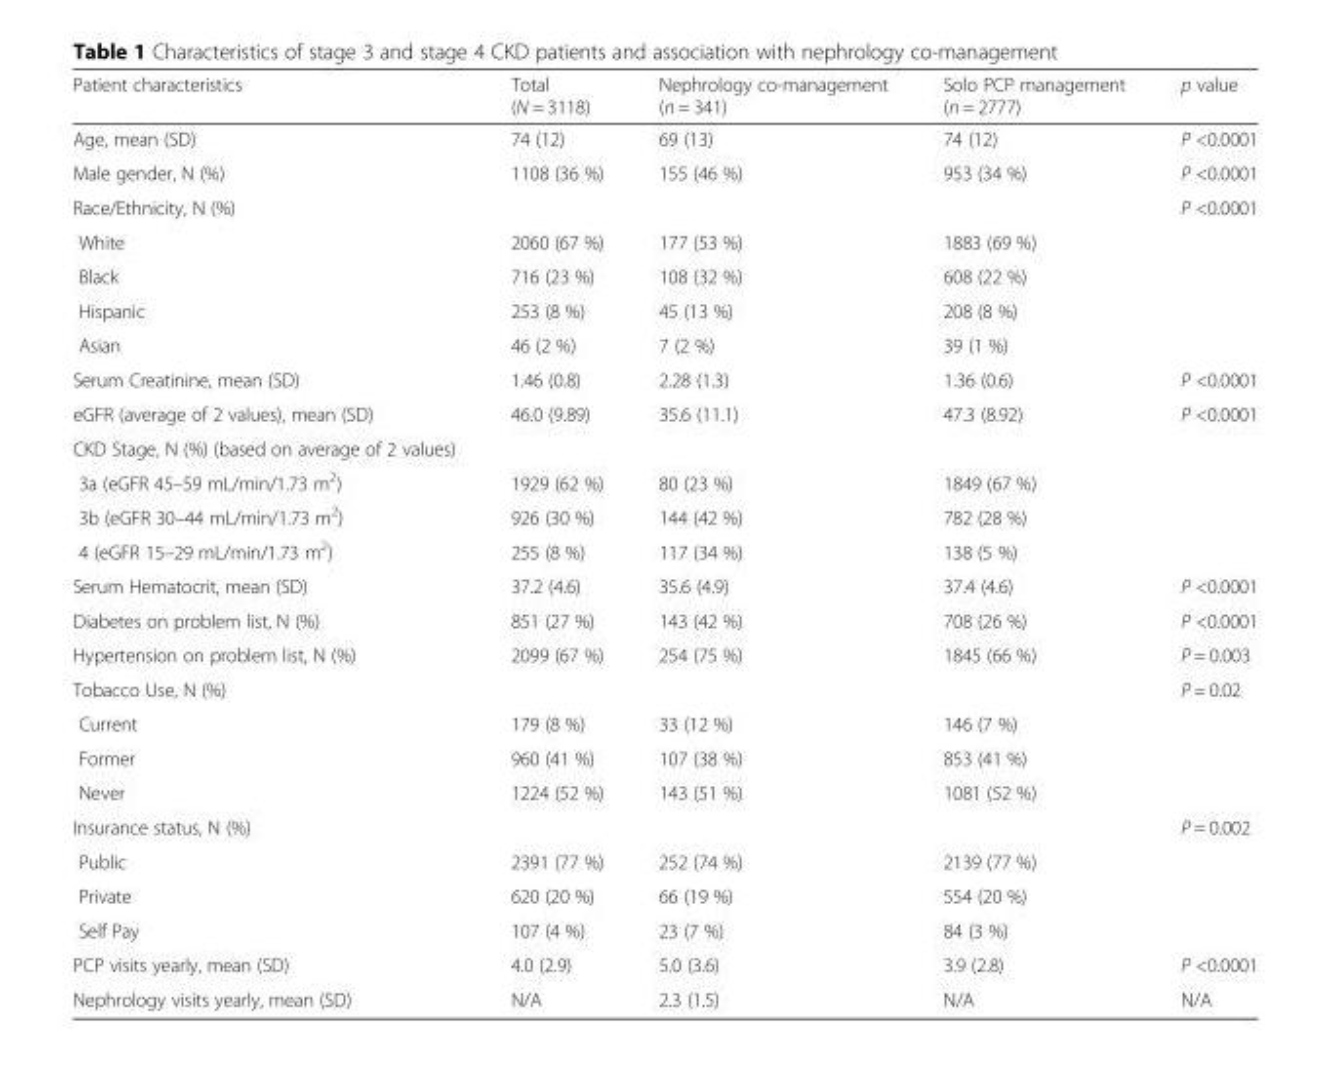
<table><thead><tr><td>Patient characteristics</td><td>Total (N = 3118)</td><td>Nephrology co-management (n = 341)</td><td>Solo PCP management (n = 2777)</td><td>p value</td></tr></thead><tbody><tr><td>Age, mean (SD)</td><td>74 (12)</td><td>69 (13)</td><td>74 (12)</td><td>P &lt;0.0001</td></tr><tr><td>Male gender, N (%)</td><td>1108 (36 %)</td><td>155 (46 %)</td><td>953 (34 %)</td><td>P &lt;0.0001</td></tr><tr><td>Race/Ethnicity, N (%)</td><td></td><td></td><td></td><td>P &lt;0.0001</td></tr><tr><td>White</td><td>2060 (67 %)</td><td>177 (53 %)</td><td>1883 (69 %)</td><td></td></tr><tr><td>Black</td><td>716 (23 %)</td><td>108 (32 %)</td><td>608 (22 %)</td><td></td></tr><tr><td>Hispanic</td><td>253 (8 %)</td><td>45 (13 %)</td><td>208 (8 %)</td><td></td></tr><tr><td>Asian</td><td>46 (2 %)</td><td>7 (2 %)</td><td>39 (1 %)</td><td></td></tr><tr><td>Serum Creatinine, mean (SD)</td><td>1.46 (0.8)</td><td>2.28 (1.3)</td><td>1.36 (0.6)</td><td>P &lt;0.0001</td></tr><tr><td>eGFR (average of 2 values), mean (SD)</td><td>46.0 (9.89)</td><td>35.6 (11.1)</td><td>47.3 (8.92)</td><td>P &lt;0.0001</td></tr><tr><td colspan="5">CKD Stage, N (%) (based on average of 2 values)</td></tr><tr><td>3a (eGFR 45–59 mL/min/1.73 m<sup>2</sup>)</td><td>1929 (62 %)</td><td>80 (23 %)</td><td>1849 (67 %)</td><td></td></tr><tr><td>3b (eGFR 30–44 mL/min/1.73 m<sup>2</sup>)</td><td>926 (30 %)</td><td>144 (42 %)</td><td>782 (28 %)</td><td></td></tr><tr><td>4 (eGFR 15–29 mL/min/1.73 m<sup>2</sup>)</td><td>255 (8 %)</td><td>117 (34 %)</td><td>138 (5 %)</td><td></td></tr><tr><td>Serum Hematocrit, mean (SD)</td><td>37.2 (4.6)</td><td>35.6 (4.9)</td><td>37.4 (4.6)</td><td>P &lt;0.0001</td></tr><tr><td>Diabetes on problem list, N (%)</td><td>851 (27 %)</td><td>143 (42 %)</td><td>708 (26 %)</td><td>P &lt;0.0001</td></tr><tr><td>Hypertension on problem list, N (%)</td><td>2099 (67 %)</td><td>254 (75 %)</td><td>1845 (66 %)</td><td>P = 0.003</td></tr><tr><td>Tobacco Use, N (%)</td><td></td><td></td><td></td><td>P = 0.02</td></tr><tr><td>Current</td><td>179 (8 %)</td><td>33 (12 %)</td><td>146 (7 %)</td><td></td></tr><tr><td>Former</td><td>960 (41 %)</td><td>107 (38 %)</td><td>853 (41 %)</td><td></td></tr><tr><td>Never</td><td>1224 (52 %)</td><td>143 (51 %)</td><td>1081 (52 %)</td><td></td></tr><tr><td>Insurance status, N (%)</td><td></td><td></td><td></td><td>P = 0.002</td></tr><tr><td>Public</td><td>2391 (77 %)</td><td>252 (74 %)</td><td>2139 (77 %)</td><td></td></tr><tr><td>Private</td><td>620 (20 %)</td><td>66 (19 %)</td><td>554 (20 %)</td><td></td></tr><tr><td>Self Pay</td><td>107 (4 %)</td><td>23 (7 %)</td><td>84 (3 %)</td><td></td></tr><tr><td>PCP visits yearly, mean (SD)</td><td>4.0 (2.9)</td><td>5.0 (3.6)</td><td>3.9 (2.8)</td><td>P &lt;0.0001</td></tr><tr><td>Nephrology visits yearly, mean (SD)</td><td>N/A</td><td>2.3 (1.5)</td><td>N/A</td><td>N/A</td></tr></tbody></table>